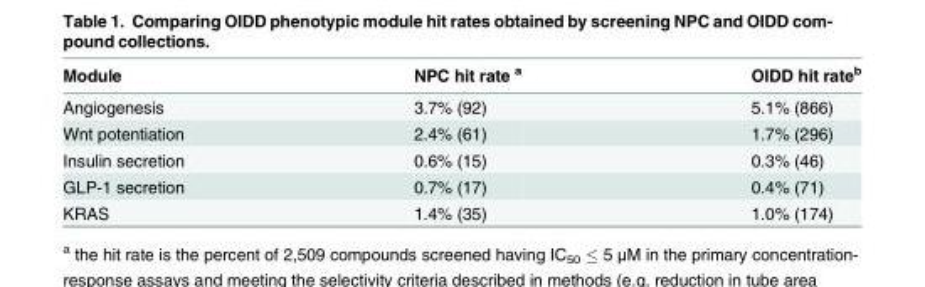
<table><thead><tr><td>Module</td><td>NPC hit rate <sup>a</sup></td><td>OIDD hit rate<sup>b</sup></td></tr></thead><tbody><tr><td>Angiogenesis</td><td>3.7% (92)</td><td>5.1% (866)</td></tr><tr><td>Wnt potentiation</td><td>2.4% (61)</td><td>1.7% (296)</td></tr><tr><td>Insulin secretion</td><td>0.6% (15)</td><td>0.3% (46)</td></tr><tr><td>GLP-1 secretion</td><td>0.7% (17)</td><td>0.4% (71)</td></tr><tr><td>KRAS</td><td>1.4% (35)</td><td>1.0% (174)</td></tr></tbody></table>